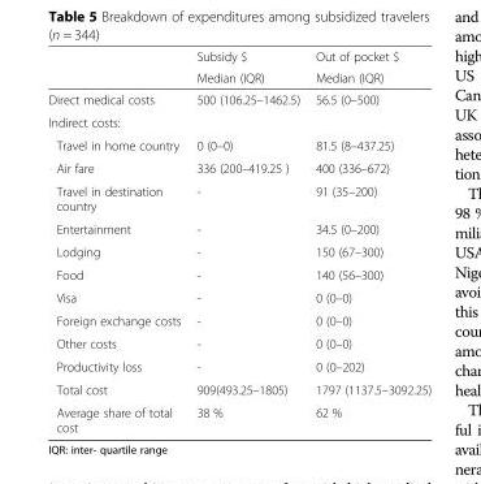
<table><thead><tr><td rowspan="2"></td><td rowspan="2">Subsidy $ Median (IQR)</td><td rowspan="2">Out of pocket $ Median (IQR)</td></tr><tr></tr></thead><tbody><tr><td>Direct medical costs</td><td>500 (106.25–1462.5)</td><td>56.5 (0–500)</td></tr><tr><td colspan="3">Indirect costs:</td></tr><tr><td>Travel in home country</td><td>0 (0–0)</td><td>81.5 (8–437.25)</td></tr><tr><td>Air fare</td><td>336 (200–419.25 )</td><td>400 (336–672)</td></tr><tr><td>Travel in destination country</td><td>-</td><td>91 (35–200)</td></tr><tr><td>Entertainment</td><td>-</td><td>34.5 (0–200)</td></tr><tr><td>Lodging</td><td>-</td><td>150 (67–300)</td></tr><tr><td>Food</td><td>-</td><td>140 (56–300)</td></tr><tr><td>Visa</td><td>-</td><td>0 (0–0)</td></tr><tr><td>Foreign exchange costs</td><td>-</td><td>0 (0–0)</td></tr><tr><td>Other costs</td><td>-</td><td>0 (0–0)</td></tr><tr><td>Productivity loss</td><td>-</td><td>0 (0–202)</td></tr><tr><td>Total cost</td><td>909(493.25–1805)</td><td>1797 (1137.5–3092.25)</td></tr><tr><td>Average share of total cost</td><td>38 %</td><td>62 %</td></tr></tbody></table>